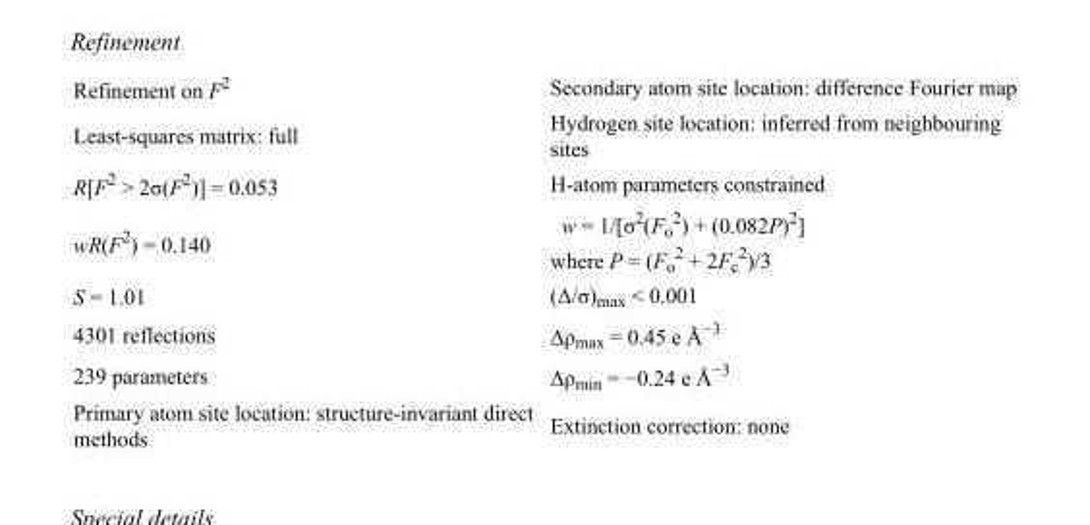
<table><tbody><tr><td>Refinement on F<sup>2</sup></td><td>Secondary atom site location: difference Fourier map</td></tr><tr><td>Least-squares matrix: full</td><td>Hydrogen site location: inferred from neighbouring sites</td></tr><tr><td>R[F<sup>2</sup> &gt; 2σ(F<sup>2</sup>)] = 0.053</td><td>H-atom parameters constrained</td></tr><tr><td>wR(F<sup>2</sup>) = 0.140</td><td>w = 1/[σ<sup>2</sup>(F<sub>o</sub> <sup>2</sup>) + (0.082P)<sup>2</sup>] where P = (F<sub>o</sub> <sup>2</sup> + 2F<sub>c</sub> <sup>2</sup>)/3</td></tr><tr><td>S = 1.01</td><td>(Δ/σ)<sub>max</sub> &lt; 0.001</td></tr><tr><td>4301 reflections</td><td>Δρ<sub>max</sub> = 0.45 e Å<sup>−3</sup></td></tr><tr><td>239 parameters</td><td>Δρ<sub>min</sub> = −0.24 e Å<sup>−3</sup></td></tr><tr><td>Primary atom site location: structure-invariant direct methods</td><td>Extinction correction: none</td></tr></tbody></table>